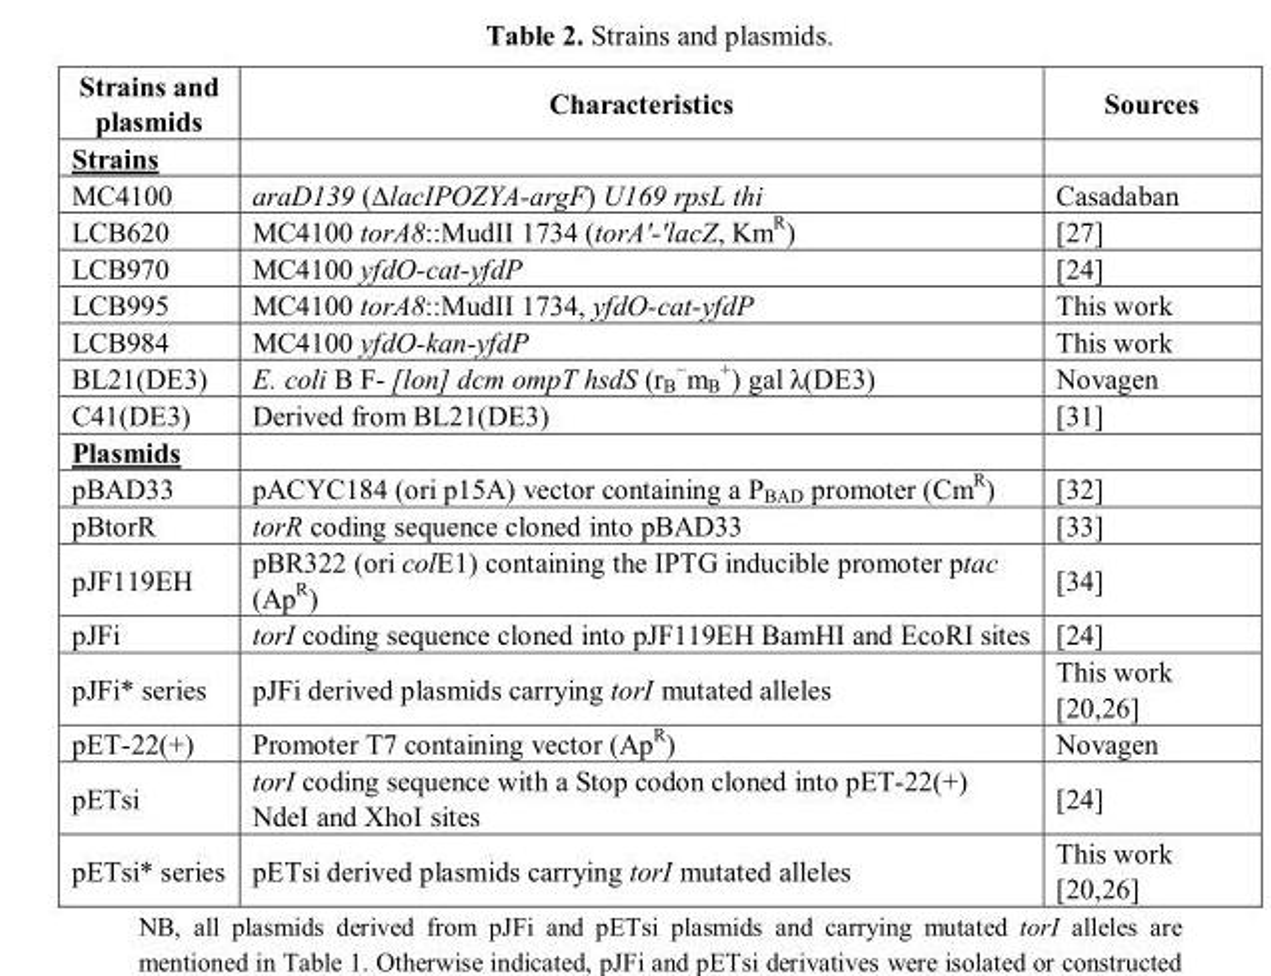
<table><thead><tr><td>Strains and plasmids</td><td>Characteristics</td><td>Sources</td></tr></thead><tbody><tr><td colspan="3">Strains</td></tr><tr><td>MC4100</td><td>araD139 (∆lacIPOZYA-argF) U169 rpsL thi</td><td>Casadaban</td></tr><tr><td>LCB620</td><td>MC4100 torA8::MudII 1734 (torA&#x27;-&#x27;lacZ, Km<sup>R</sup>)</td><td>[27]</td></tr><tr><td>LCB970</td><td>MC4100 yfdO-cat-yfdP</td><td>[24]</td></tr><tr><td>LCB995</td><td>MC4100 torA8::MudII 1734, yfdO-cat-yfdP</td><td>This work</td></tr><tr><td>LCB984</td><td>MC4100 yfdO-kan-yfdP</td><td>This work</td></tr><tr><td>BL21(DE3)</td><td>E. coli B F- [lon] dcm ompT hsdS (r<sub>B</sub> <sup>−</sup>m<sub>B</sub> <sup>+</sup>) gal λ(DE3)</td><td>Novagen</td></tr><tr><td>C41(DE3)</td><td>Derived from BL21(DE3)</td><td>[31]</td></tr><tr><td colspan="3">Plasmids</td></tr><tr><td>pBAD33</td><td>pACYC184 (ori p15A) vector containing a P<sub>BAD</sub> promoter (Cm<sup>R</sup>)</td><td>[32]</td></tr><tr><td>pBtorR</td><td>torR coding sequence cloned into pBAD33</td><td>[33]</td></tr><tr><td>pJF119EH</td><td>pBR322 (ori colE1) containing the IPTG inducible promoter ptac (Ap<sup>R</sup>)</td><td>[34]</td></tr><tr><td>pJFi</td><td>torI coding sequence cloned into pJF119EH BamHI and EcoRI sites</td><td>[24]</td></tr><tr><td>pJFi* series</td><td>pJFi derived plasmids carrying torI mutated alleles</td><td>This work [20,26]</td></tr><tr><td>pET-22(+)</td><td>Promoter T7 containing vector (Ap<sup>R</sup>)</td><td>Novagen</td></tr><tr><td>pETsi</td><td>torI coding sequence with a Stop codon cloned into pET-22(+) NdeI and XhoI sites</td><td>[24]</td></tr><tr><td>pETsi* series</td><td>pETsi derived plasmids carrying torI mutated alleles</td><td>This work [20,26]</td></tr></tbody></table>